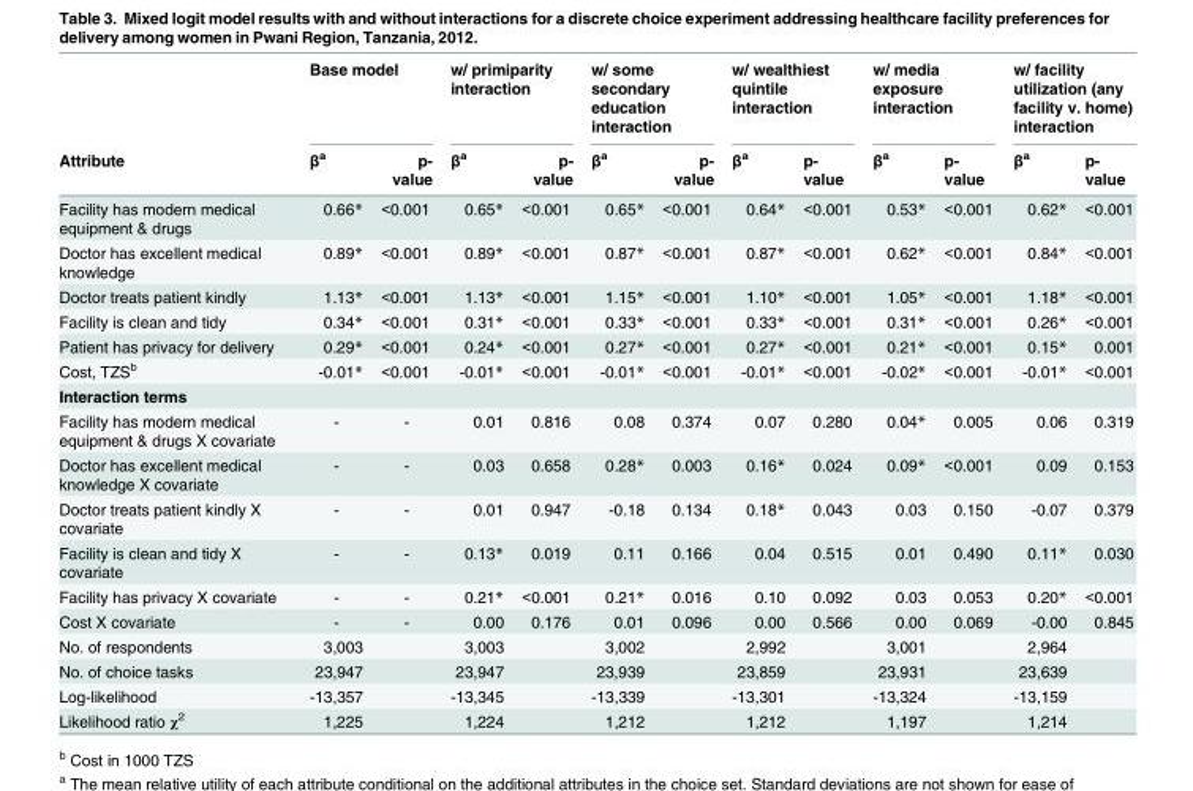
<table><thead><tr><td rowspan="2">Attribute</td><td colspan="2">Base model</td><td colspan="2">w/ primiparity interaction</td><td colspan="2">w/ some secondary education interaction</td><td colspan="2">w/ wealthiest quintile interaction</td><td colspan="2">w/ media exposure interaction</td><td colspan="2">w/ facility utilization (any facility v. home) interaction</td></tr><tr><td>β<sup>a</sup></td><td>p- value</td><td>β<sup>a</sup></td><td>p- value</td><td>β<sup>a</sup></td><td>p- value</td><td>β<sup>a</sup></td><td>p- value</td><td>β<sup>a</sup></td><td>p- value</td><td>β<sup>a</sup></td><td>p- value</td></tr></thead><tbody><tr><td>Facility has modern medical equipment &amp; drugs</td><td>0.66*</td><td>&lt;0.001</td><td>0.65*</td><td>&lt;0.001</td><td>0.65*</td><td>&lt;0.001</td><td>0.64*</td><td>&lt;0.001</td><td>0.53*</td><td>&lt;0.001</td><td>0.62*</td><td>&lt;0.001</td></tr><tr><td>Doctor has excellent medical knowledge</td><td>0.89*</td><td>&lt;0.001</td><td>0.89*</td><td>&lt;0.001</td><td>0.87*</td><td>&lt;0.001</td><td>0.87*</td><td>&lt;0.001</td><td>0.62*</td><td>&lt;0.001</td><td>0.84*</td><td>&lt;0.001</td></tr><tr><td>Doctor treats patient kindly</td><td>1.13*</td><td>&lt;0.001</td><td>1.13*</td><td>&lt;0.001</td><td>1.15*</td><td>&lt;0.001</td><td>1.10*</td><td>&lt;0.001</td><td>1.05*</td><td>&lt;0.001</td><td>1.18*</td><td>&lt;0.001</td></tr><tr><td>Facility is clean and tidy</td><td>0.34*</td><td>&lt;0.001</td><td>0.31*</td><td>&lt;0.001</td><td>0.33*</td><td>&lt;0.001</td><td>0.33*</td><td>&lt;0.001</td><td>0.31*</td><td>&lt;0.001</td><td>0.26*</td><td>&lt;0.001</td></tr><tr><td>Patient has privacy for delivery</td><td>0.29*</td><td>&lt;0.001</td><td>0.24*</td><td>&lt;0.001</td><td>0.27*</td><td>&lt;0.001</td><td>0.27*</td><td>&lt;0.001</td><td>0.21*</td><td>&lt;0.001</td><td>0.15*</td><td>0.001</td></tr><tr><td>Cost, TZS<sup>b</sup></td><td>-0.01*</td><td>&lt;0.001</td><td>-0.01*</td><td>&lt;0.001</td><td>-0.01*</td><td>&lt;0.001</td><td>-0.01*</td><td>&lt;0.001</td><td>-0.02*</td><td>&lt;0.001</td><td>-0.01*</td><td>&lt;0.001</td></tr><tr><td colspan="13">Interaction terms</td></tr><tr><td>Facility has modern medical equipment &amp; drugs X covariate</td><td>-</td><td>-</td><td>0.01</td><td>0.816</td><td>0.08</td><td>0.374</td><td>0.07</td><td>0.280</td><td>0.04*</td><td>0.005</td><td>0.06</td><td>0.319</td></tr><tr><td>Doctor has excellent medical knowledge X covariate</td><td>-</td><td>-</td><td>0.03</td><td>0.658</td><td>0.28*</td><td>0.003</td><td>0.16*</td><td>0.024</td><td>0.09*</td><td>&lt;0.001</td><td>0.09</td><td>0.153</td></tr><tr><td>Doctor treats patient kindly X covariate</td><td>-</td><td>-</td><td>0.01</td><td>0.947</td><td>-0.18</td><td>0.134</td><td>0.18*</td><td>0.043</td><td>0.03</td><td>0.150</td><td>-0.07</td><td>0.379</td></tr><tr><td>Facility is clean and tidy X covariate</td><td>-</td><td>-</td><td>0.13*</td><td>0.019</td><td>0.11</td><td>0.166</td><td>0.04</td><td>0.515</td><td>0.01</td><td>0.490</td><td>0.11*</td><td>0.030</td></tr><tr><td>Facility has privacy X covariate</td><td>-</td><td>-</td><td>0.21*</td><td>&lt;0.001</td><td>0.21*</td><td>0.016</td><td>0.10</td><td>0.092</td><td>0.03</td><td>0.053</td><td>0.20*</td><td>&lt;0.001</td></tr><tr><td>Cost X covariate</td><td>-</td><td>-</td><td>0.00</td><td>0.176</td><td>0.01</td><td>0.096</td><td>0.00</td><td>0.566</td><td>0.00</td><td>0.069</td><td>-0.00</td><td>0.845</td></tr><tr><td>No. of respondents</td><td>3,003</td><td></td><td>3,003</td><td></td><td>3,002</td><td></td><td>2,992</td><td></td><td>3,001</td><td></td><td>2,964</td><td></td></tr><tr><td>No. of choice tasks</td><td>23,947</td><td></td><td>23,947</td><td></td><td>23,939</td><td></td><td>23,859</td><td></td><td>23,931</td><td></td><td>23,639</td><td></td></tr><tr><td>Log-likelihood</td><td>-13,357</td><td></td><td>-13,345</td><td></td><td>-13,339</td><td></td><td>-13,301</td><td></td><td>-13,324</td><td></td><td>-13,159</td><td></td></tr><tr><td>Likelihood ratio χ<sup>2</sup></td><td>1,225</td><td></td><td>1,224</td><td></td><td>1,212</td><td></td><td>1,212</td><td></td><td>1,197</td><td></td><td>1,214</td><td></td></tr></tbody></table>